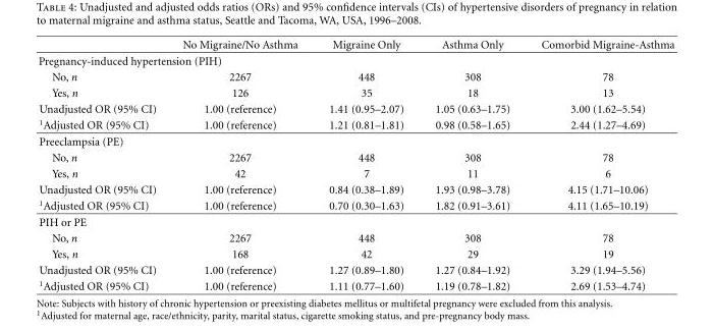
<table><thead><tr><td></td><td>No Migraine/No Asthma</td><td>Migraine Only</td><td>Asthma Only</td><td>Comorbid Migraine-Asthma</td></tr></thead><tbody><tr><td colspan="5">Pregnancy-induced hypertension (PIH)</td></tr><tr><td>No, n</td><td>2267</td><td>448</td><td>308</td><td>78</td></tr><tr><td>Yes, n</td><td>126</td><td>35</td><td>18</td><td>13</td></tr><tr><td>Unadjusted OR (95% CI)</td><td>1.00 (reference)</td><td>1.41 (0.95–2.07)</td><td>1.05 (0.63–1.75)</td><td>3.00 (1.62–5.54)</td></tr><tr><td><sup>1</sup>Adjusted OR (95% CI)</td><td>1.00 (reference)</td><td>1.21 (0.81–1.81)</td><td>0.98 (0.58–1.65)</td><td>2.44 (1.27–4.69)</td></tr><tr><td colspan="5">Preeclampsia (PE)</td></tr><tr><td>No, n</td><td>2267</td><td>448</td><td>308</td><td>78</td></tr><tr><td>Yes, n</td><td>42</td><td>7</td><td>11</td><td>6</td></tr><tr><td>Unadjusted OR (95% CI)</td><td>1.00 (reference)</td><td>0.84 (0.38–1.89)</td><td>1.93 (0.98–3.78)</td><td>4.15 (1.71–10.06)</td></tr><tr><td><sup>1</sup>Adjusted OR (95% CI)</td><td>1.00 (reference)</td><td>0.70 (0.30–1.63)</td><td>1.82 (0.91–3.61)</td><td>4.11 (1.65–10.19)</td></tr><tr><td colspan="5">PIH or PE</td></tr><tr><td>No, n</td><td>2267</td><td>448</td><td>308</td><td>78</td></tr><tr><td>Yes, n</td><td>168</td><td>42</td><td>29</td><td>19</td></tr><tr><td>Unadjusted OR (95% CI)</td><td>1.00 (reference)</td><td>1.27 (0.89–1.80)</td><td>1.27 (0.84–1.92)</td><td>3.29 (1.94–5.56)</td></tr><tr><td><sup>1</sup>Adjusted OR (95% CI)</td><td>1.00 (reference)</td><td>1.11 (0.77–1.60)</td><td>1.19 (0.78–1.82)</td><td>2.69 (1.53–4.74)</td></tr></tbody></table>